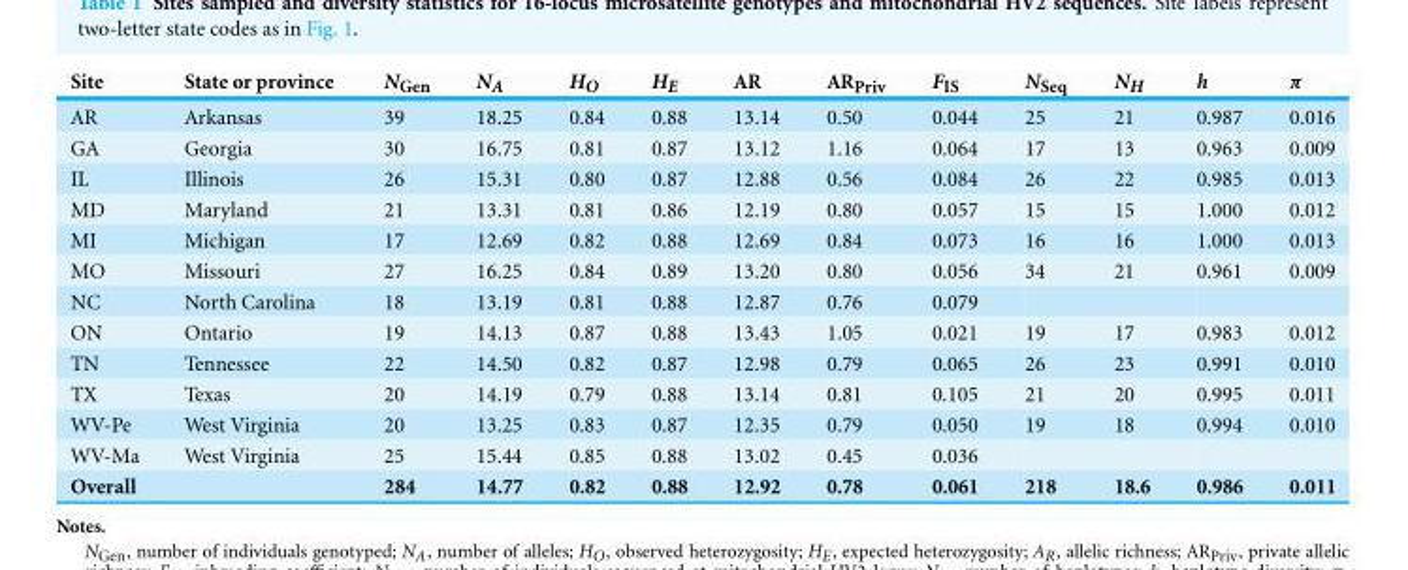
<table><thead><tr><td>Site</td><td>State or province</td><td>N<sub>Gen</sub></td><td>N<sub>A</sub></td><td>H<sub>O</sub></td><td>H<sub>E</sub></td><td>AR</td><td>AR<sub>Priv</sub></td><td>F<sub>IS</sub></td><td>N<sub>Seq</sub></td><td>N<sub>H</sub></td><td>h</td><td>π</td></tr></thead><tbody><tr><td>AR</td><td>Arkansas</td><td>39</td><td>18.25</td><td>0.84</td><td>0.88</td><td>13.14</td><td>0.50</td><td>0.044</td><td>25</td><td>21</td><td>0.987</td><td>0.016</td></tr><tr><td>GA</td><td>Georgia</td><td>30</td><td>16.75</td><td>0.81</td><td>0.87</td><td>13.12</td><td>1.16</td><td>0.064</td><td>17</td><td>13</td><td>0.963</td><td>0.009</td></tr><tr><td>IL</td><td>Illinois</td><td>26</td><td>15.31</td><td>0.80</td><td>0.87</td><td>12.88</td><td>0.56</td><td>0.084</td><td>26</td><td>22</td><td>0.985</td><td>0.013</td></tr><tr><td>MD</td><td>Maryland</td><td>21</td><td>13.31</td><td>0.81</td><td>0.86</td><td>12.19</td><td>0.80</td><td>0.057</td><td>15</td><td>15</td><td>1.000</td><td>0.012</td></tr><tr><td>MI</td><td>Michigan</td><td>17</td><td>12.69</td><td>0.82</td><td>0.88</td><td>12.69</td><td>0.84</td><td>0.073</td><td>16</td><td>16</td><td>1.000</td><td>0.013</td></tr><tr><td>MO</td><td>Missouri</td><td>27</td><td>16.25</td><td>0.84</td><td>0.89</td><td>13.20</td><td>0.80</td><td>0.056</td><td>34</td><td>21</td><td>0.961</td><td>0.009</td></tr><tr><td>NC</td><td>North Carolina</td><td>18</td><td>13.19</td><td>0.81</td><td>0.88</td><td>12.87</td><td>0.76</td><td>0.079</td><td></td><td></td><td></td><td></td></tr><tr><td>ON</td><td>Ontario</td><td>19</td><td>14.13</td><td>0.87</td><td>0.88</td><td>13.43</td><td>1.05</td><td>0.021</td><td>19</td><td>17</td><td>0.983</td><td>0.012</td></tr><tr><td>TN</td><td>Tennessee</td><td>22</td><td>14.50</td><td>0.82</td><td>0.87</td><td>12.98</td><td>0.79</td><td>0.065</td><td>26</td><td>23</td><td>0.991</td><td>0.010</td></tr><tr><td>TX</td><td>Texas</td><td>20</td><td>14.19</td><td>0.79</td><td>0.88</td><td>13.14</td><td>0.81</td><td>0.105</td><td>21</td><td>20</td><td>0.995</td><td>0.011</td></tr><tr><td>WV-Pe</td><td>West Virginia</td><td>20</td><td>13.25</td><td>0.83</td><td>0.87</td><td>12.35</td><td>0.79</td><td>0.050</td><td>19</td><td>18</td><td>0.994</td><td>0.010</td></tr><tr><td>WV-Ma</td><td>West Virginia</td><td>25</td><td>15.44</td><td>0.85</td><td>0.88</td><td>13.02</td><td>0.45</td><td>0.036</td><td></td><td></td><td></td><td></td></tr><tr><td>Overall</td><td></td><td>284</td><td>14.77</td><td>0.82</td><td>0.88</td><td>12.92</td><td>0.78</td><td>0.061</td><td>218</td><td>18.6</td><td>0.986</td><td>0.011</td></tr></tbody></table>